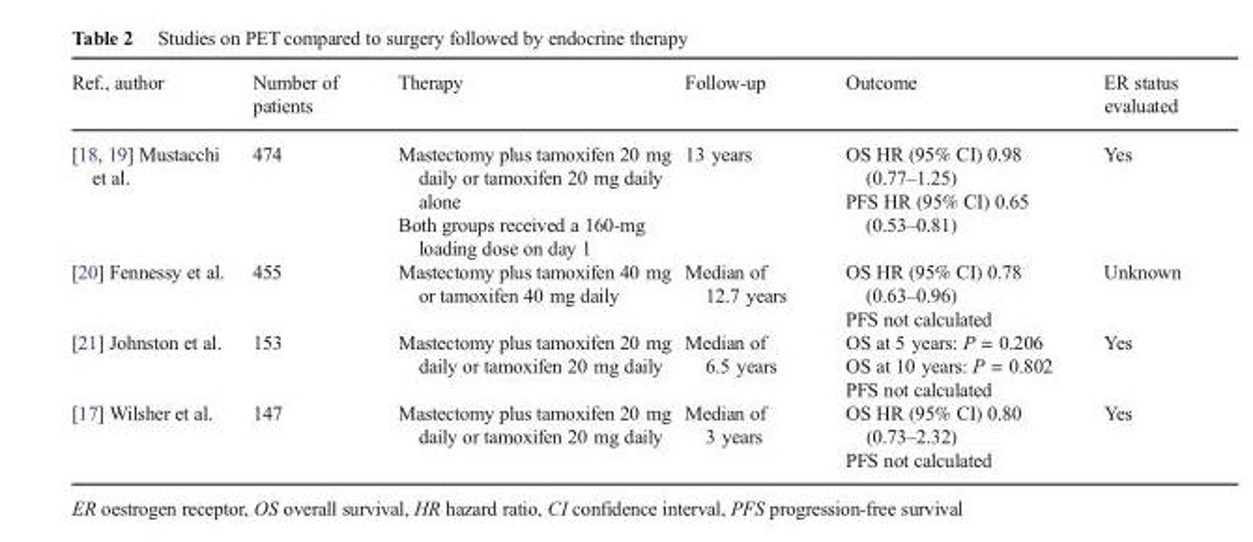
<table><thead><tr><td>Ref., author</td><td>Number of patients</td><td>Therapy</td><td>Follow-up</td><td>Outcome</td><td>ER status evaluated</td></tr></thead><tbody><tr><td>[18, 19] Mustacchi et al.</td><td>474</td><td>Mastectomy plus tamoxifen 20 mg daily or tamoxifen 20 mg daily alone Both groups received a 160-mg loading dose on day 1</td><td>13 years</td><td>OS HR (95% CI) 0.98 (0.77–1.25) PFS HR (95% CI) 0.65 (0.53–0.81)</td><td>Yes</td></tr><tr><td>[20] Fennessy et al.</td><td>455</td><td>Mastectomy plus tamoxifen 40 mg or tamoxifen 40 mg daily</td><td>Median of 12.7 years</td><td>OS HR (95% CI) 0.78 (0.63–0.96) PFS not calculated</td><td>Unknown</td></tr><tr><td>[21] Johnston et al.</td><td>153</td><td>Mastectomy plus tamoxifen 20 mg daily or tamoxifen 20 mg daily</td><td>Median of 6.5 years</td><td>OS at 5 years: P = 0.206 OS at 10 years: P = 0.802 PFS not calculated</td><td>Yes</td></tr><tr><td>[17] Wilsher et al.</td><td>147</td><td>Mastectomy plus tamoxifen 20 mg daily or tamoxifen 20 mg daily</td><td>Median of 3 years</td><td>OS HR (95% CI) 0.80 (0.73–2.32) PFS not calculated</td><td>Yes</td></tr></tbody></table>